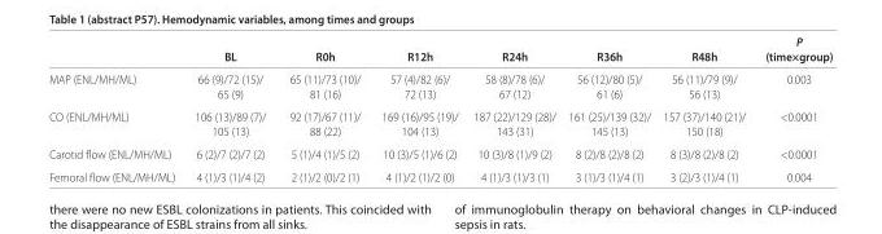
<table><thead><tr><td></td><td>BL</td><td>R0h</td><td>R12h</td><td>R24h</td><td>R36h</td><td>R48h</td><td>(time×group)</td></tr></thead><tbody><tr><td rowspan="2">MAP (ENL/MH/ML)</td><td>66 (9)/72 (15)/</td><td>65 (11)/73 (10)/</td><td>57 (4)/82 (6)/</td><td>58 (8)/78 (6)/</td><td>56 (12)/80 (5)/</td><td>56 (11)/79 (9)/</td><td>0.003</td></tr><tr><td>65 (9)</td><td>81 (16)</td><td>72 (13)</td><td>67 (12)</td><td>61 (6)</td><td>56 (13)</td><td></td></tr><tr><td rowspan="2">CO (ENL/MH/ML)</td><td>106 (13)/89 (7)/</td><td>92 (17)/67 (11)/</td><td>169 (16)/95 (19)/</td><td>187 (22)/129 (28)/</td><td>161 (25)/139 (32)/</td><td>157 (37)/140 (21)/</td><td>&lt;0.0001</td></tr><tr><td>105 (13)</td><td>88 (22)</td><td>104 (13)</td><td>143 (31)</td><td>145 (13)</td><td>150 (18)</td><td></td></tr><tr><td>Carotid fl ow (ENL/MH/ML)</td><td>6 (2)/7 (2)/7 (2)</td><td>5 (1)/4 (1)/5 (2)</td><td>10 (3)/5 (1)/6 (2)</td><td>10 (3)/8 (1)/9 (2)</td><td>8 (2)/8 (2)/8 (2)</td><td>8 (3)/8 (2)/8 (2)</td><td>&lt;0.0001</td></tr><tr><td>Femoral fl ow (ENL/MH/ML)</td><td>4 (1)/3 (1)/4 (2)</td><td>2 (1)/2 (0)/2 (1)</td><td>4 (1)/2 (1)/2 (0)</td><td>4 (1)/3 (1)/3 (1)</td><td>3 (1)/3 (1)/4 (1)</td><td>3 (2)/3 (1)/4 (1)</td><td>0.004</td></tr></tbody></table>